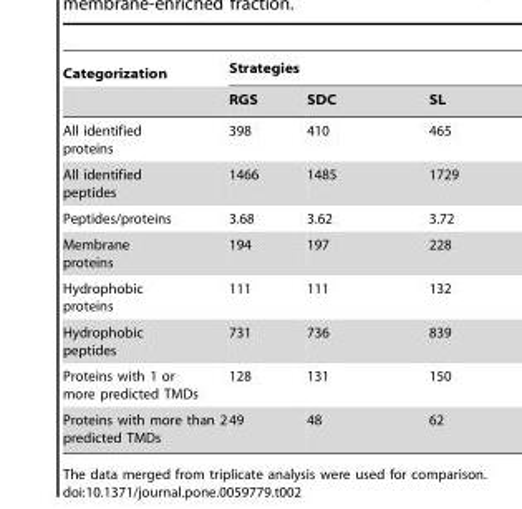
<table><thead><tr><td rowspan="2">Categorization</td><td colspan="3">Strategies</td></tr><tr><td>RGS</td><td>SDC</td><td>SL</td></tr></thead><tbody><tr><td>All identified proteins</td><td>398</td><td>410</td><td>465</td></tr><tr><td>All identified peptides</td><td>1466</td><td>1485</td><td>1729</td></tr><tr><td>Peptides/proteins</td><td>3.68</td><td>3.62</td><td>3.72</td></tr><tr><td>Membrane proteins</td><td>194</td><td>197</td><td>228</td></tr><tr><td>Hydrophobic proteins</td><td>111</td><td>111</td><td>132</td></tr><tr><td>Hydrophobic peptides</td><td>731</td><td>736</td><td>839</td></tr><tr><td>Proteins with 1 or more predicted TMDs</td><td>128</td><td>131</td><td>150</td></tr><tr><td>Proteins with more than 2 predicted TMDs</td><td>49</td><td>48</td><td>62</td></tr></tbody></table>